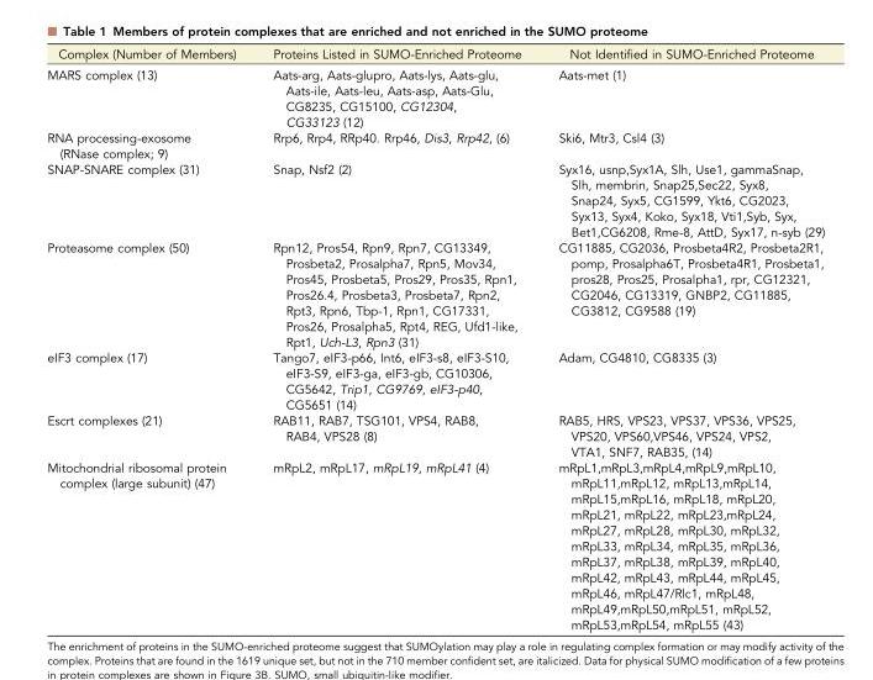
<table><thead><tr><td>Complex (Number of Members)</td><td>Proteins Listed in SUMO-Enriched Proteome</td><td>Not Identified in SUMO-Enriched Proteome</td></tr></thead><tbody><tr><td>MARS complex (13)</td><td>Aats-arg, Aats-glupro, Aats-lys, Aats-glu, Aats-ile, Aats-leu, Aats-asp, Aats-Glu, CG8235, CG15100, CG12304, CG33123 (12)</td><td>Aats-met (1)</td></tr><tr><td>RNA processing-exosome (RNase complex; 9)</td><td>Rrp6, Rrp4, RRp40. Rrp46, Dis3, Rrp42, (6)</td><td>Ski6, Mtr3, Csl4 (3)</td></tr><tr><td>SNAP-SNARE complex (31)</td><td>Snap, Nsf2 (2)</td><td>Syx16, usnp,Syx1A, Slh, Use1, gammaSnap, Slh, membrin, Snap25,Sec22, Syx8, Snap24, Syx5, CG1599, Ykt6, CG2023, Syx13, Syx4, Koko, Syx18, Vti1,Syb, Syx, Bet1,CG6208, Rme-8, AttD, Syx17, n-syb (29)</td></tr><tr><td>Proteasome complex (50)</td><td>Rpn12, Pros54, Rpn9, Rpn7, CG13349, Prosbeta2, Prosalpha7, Rpn5, Mov34, Pros45, Prosbeta5, Pros29, Pros35, Rpn1, Pros26.4, Prosbeta3, Prosbeta7, Rpn2, Rpt3, Rpn6, Tbp-1, Rpn1, CG17331, Pros26, Prosalpha5, Rpt4, REG, Ufd1-like, Rpt1, Uch-L3, Rpn3 (31)</td><td>CG11885, CG2036, Prosbeta4R2, Prosbeta2R1, pomp, Prosalpha6T, Prosbeta4R1, Prosbeta1, pros28, Pros25, Prosalpha1, rpr, CG12321, CG2046, CG13319, GNBP2, CG11885, CG3812, CG9588 (19)</td></tr><tr><td>eIF3 complex (17)</td><td>Tango7, eIF3-p66, Int6, eIF3-s8, eIF3-S10, eIF3-S9, eIF3-ga, eIF3-gb, CG10306, CG5642, Trip1, CG9769, eIF3-p40, CG5651 (14)</td><td>Adam, CG4810, CG8335 (3)</td></tr><tr><td>Escrt complexes (21)</td><td>RAB11, RAB7, TSG101, VPS4, RAB8, RAB4, VPS28 (8)</td><td>RAB5, HRS, VPS23, VPS37, VPS36, VPS25, VPS20, VPS60,VPS46, VPS24, VPS2, VTA1, SNF7, RAB35, (14)</td></tr><tr><td>Mitochondrial ribosomal protein complex (large subunit) (47)</td><td>mRpL2, mRpL17, mRpL19, mRpL41 (4)</td><td>mRpL1,mRpL3,mRpL4,mRpL9,mRpL10, mRpL11,mRpL12, mRpL13,mRpL14, mRpL15,mRpL16, mRpL18, mRpL20, mRpL21, mRpL22, mRpL23,mRpL24, mRpL27, mRpL28, mRpL30, mRpL32, mRpL33, mRpL34, mRpL35, mRpL36, mRpL37, mRpL38, mRpL39, mRpL40, mRpL42, mRpL43, mRpL44, mRpL45, mRpL46, mRpL47/Rlc1, mRpL48, mRpL49,mRpL50,mRpL51, mRpL52, mRpL53,mRpL54, mRpL55 (43)</td></tr></tbody></table>